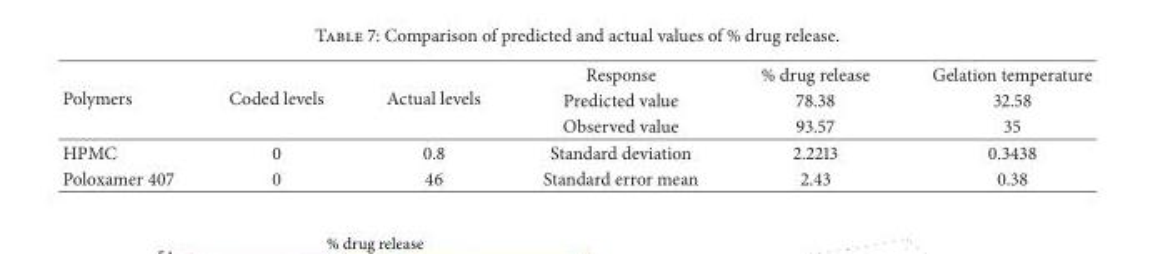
<table><thead><tr><td rowspan="3">Polymers</td><td rowspan="3">Coded levels</td><td rowspan="3">Actual levels</td><td rowspan="3">Response Predicted value Observed value</td><td rowspan="3">% drug release 78.38 93.57</td><td rowspan="3">Gelation temperature 32.58 35</td></tr><tr></tr><tr></tr></thead><tbody><tr><td>HPMC</td><td>0</td><td>0.8</td><td>Standard deviation</td><td>2.2213</td><td>0.3438</td></tr><tr><td>Poloxamer 407</td><td>0</td><td>46</td><td>Standard error mean</td><td>2.43</td><td>0.38</td></tr></tbody></table>